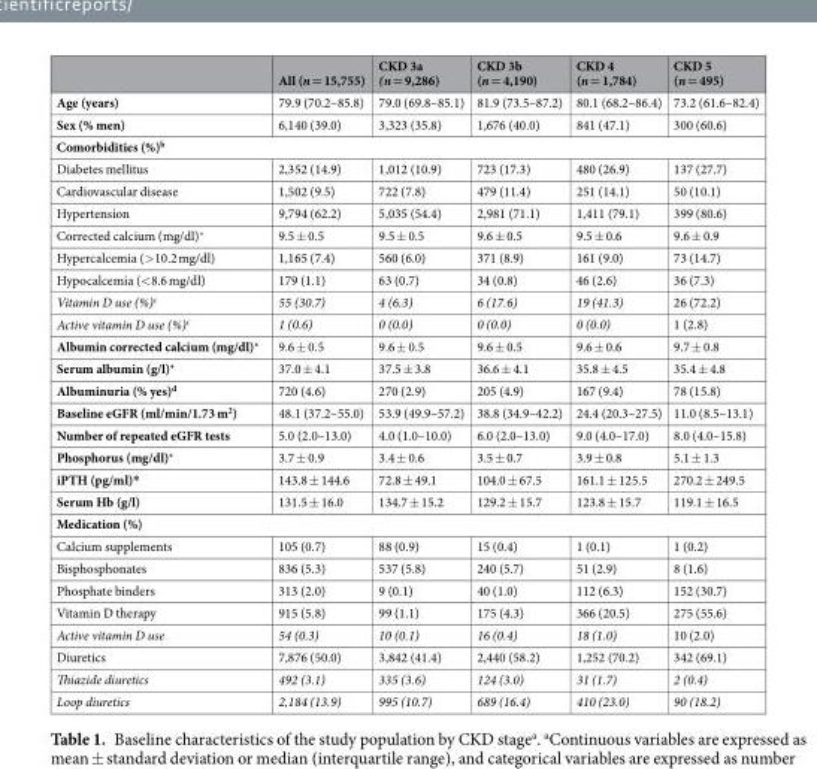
<table><thead><tr><td></td><td>All (n = 15,755)</td><td>CKD 3a (n = 9,286)</td><td>CKD 3b (n = 4,190)</td><td>CKD 4 (n = 1,784)</td><td>CKD 5 (n = 495)</td></tr></thead><tbody><tr><td>Age (years)</td><td>79.9 (70.2–85.8)</td><td>79.0 (69.8–85.1)</td><td>81.9 (73.5–87.2)</td><td>80.1 (68.2–86.4)</td><td>73.2 (61.6–82.4)</td></tr><tr><td>Sex (% men)</td><td>6,140 (39.0)</td><td>3,323 (35.8)</td><td>1,676 (40.0)</td><td>841 (47.1)</td><td>300 (60.6)</td></tr><tr><td colspan="6">Comorbidities (%)<sup>b</sup></td></tr><tr><td>Diabetes mellitus</td><td>2,352 (14.9)</td><td>1,012 (10.9)</td><td>723 (17.3)</td><td>480 (26.9)</td><td>137 (27.7)</td></tr><tr><td>Cardiovascular disease</td><td>1,502 (9.5)</td><td>722 (7.8)</td><td>479 (11.4)</td><td>251 (14.1)</td><td>50 (10.1)</td></tr><tr><td>Hypertension</td><td>9,794 (62.2)</td><td>5,035 (54.4)</td><td>2,981 (71.1)</td><td>1,411 (79.1)</td><td>399 (80.6)</td></tr><tr><td>Corrected calcium (mg/dl)∗</td><td>9.5 ± 0.5</td><td>9.5 ± 0.5</td><td>9.6 ± 0.5</td><td>9.5 ± 0.6</td><td>9.6 ± 0.9</td></tr><tr><td>Hypercalcemia (&gt;10.2 mg/dl)</td><td>1,165 (7.4)</td><td>560 (6.0)</td><td>371 (8.9)</td><td>161 (9.0)</td><td>73 (14.7)</td></tr><tr><td>Hypocalcemia (&lt;8.6 mg/dl)</td><td>179 (1.1)</td><td>63 (0.7)</td><td>34 (0.8)</td><td>46 (2.6)</td><td>36 (7.3)</td></tr><tr><td>Vitamin D use (%)<sup>c</sup></td><td>55 (30.7)</td><td>4 (6.3)</td><td>6 (17.6)</td><td>19 (41.3)</td><td>26 (72.2)</td></tr><tr><td>Active vitamin D use (%)<sup>c</sup></td><td>1 (0.6)</td><td>0 (0.0)</td><td>0 (0.0)</td><td>0 (0.0)</td><td>1 (2.8)</td></tr><tr><td>Albumin corrected calcium (mg/dl)∗</td><td>9.6 ± 0.5</td><td>9.6 ± 0.5</td><td>9.6 ± 0.5</td><td>9.6 ± 0.6</td><td>9.7 ± 0.8</td></tr><tr><td>Serum albumin (g/l)∗</td><td>37.0 ± 4.1</td><td>37.5 ± 3.8</td><td>36.6 ± 4.1</td><td>35.8 ± 4.5</td><td>35.4 ± 4.8</td></tr><tr><td>Albuminuria (% yes)<sup>d</sup></td><td>720 (4.6)</td><td>270 (2.9)</td><td>205 (4.9)</td><td>167 (9.4)</td><td>78 (15.8)</td></tr><tr><td>Baseline eGFR (ml/min/1.73 m<sup>2</sup>)</td><td>48.1 (37.2–55.0)</td><td>53.9 (49.9–57.2)</td><td>38.8 (34.9–42.2)</td><td>24.4 (20.3–27.5)</td><td>11.0 (8.5–13.1)</td></tr><tr><td>Number of repeated eGFR tests</td><td>5.0 (2.0–13.0)</td><td>4.0 (1.0–10.0)</td><td>6.0 (2.0–13.0)</td><td>9.0 (4.0–17.0)</td><td>8.0 (4.0–15.8)</td></tr><tr><td>Phosphorus (mg/dl)∗</td><td>3.7 ± 0.9</td><td>3.4 ± 0.6</td><td>3.5 ± 0.7</td><td>3.9 ± 0.8</td><td>5.1 ± 1.3</td></tr><tr><td>iPTH (pg/ml)*</td><td>143.8 ± 144.6</td><td>72.8 ± 49.1</td><td>104.0 ± 67.5</td><td>161.1 ± 125.5</td><td>270.2 ± 249.5</td></tr><tr><td>Serum Hb (g/l)</td><td>131.5 ± 16.0</td><td>134.7 ± 15.2</td><td>129.2 ± 15.7</td><td>123.8 ± 15.7</td><td>119.1 ± 16.5</td></tr><tr><td colspan="6">Medication (%)</td></tr><tr><td>Calcium supplements</td><td>105 (0.7)</td><td>88 (0.9)</td><td>15 (0.4)</td><td>1 (0.1)</td><td>1 (0.2)</td></tr><tr><td>Bisphosphonates</td><td>836 (5.3)</td><td>537 (5.8)</td><td>240 (5.7)</td><td>51 (2.9)</td><td>8 (1.6)</td></tr><tr><td>Phosphate binders</td><td>313 (2.0)</td><td>9 (0.1)</td><td>40 (1.0)</td><td>112 (6.3)</td><td>152 (30.7)</td></tr><tr><td>Vitamin D therapy</td><td>915 (5.8)</td><td>99 (1.1)</td><td>175 (4.3)</td><td>366 (20.5)</td><td>275 (55.6)</td></tr><tr><td>Active vitamin D use</td><td>54 (0.3)</td><td>10 (0.1)</td><td>16 (0.4)</td><td>18 (1.0)</td><td>10 (2.0)</td></tr><tr><td>Diuretics</td><td>7,876 (50.0)</td><td>3,842 (41.4)</td><td>2,440 (58.2)</td><td>1,252 (70.2)</td><td>342 (69.1)</td></tr><tr><td>Thiazide diuretics</td><td>492 (3.1)</td><td>335 (3.6)</td><td>124 (3.0)</td><td>31 (1.7)</td><td>2 (0.4)</td></tr><tr><td>Loop diuretics</td><td>2,184 (13.9)</td><td>995 (10.7)</td><td>689 (16.4)</td><td>410 (23.0)</td><td>90 (18.2)</td></tr></tbody></table>